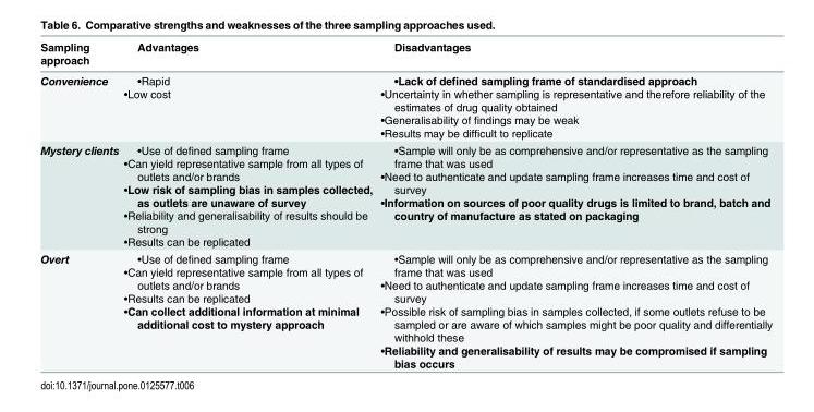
<table><thead><tr><td>Sampling approach</td><td>Advantages</td><td>Disadvantages</td></tr></thead><tbody><tr><td>Convenience</td><td>•Rapid •Low cost</td><td>•Lack of defined sampling frame of standardised approach •Uncertainty in whether sampling is representative and therefore reliability of the estimates of drug quality obtained •Generalisability of findings may be weak •Results may be difficult to replicate</td></tr><tr><td>Mystery clients</td><td>•Use of defined sampling frame •Can yield representative sample from all types of outlets and/or brands •Low risk of sampling bias in samples collected, as outlets are unaware of survey •Reliability and generalisability of results should be strong •Results can be replicated</td><td>•Sample will only be as comprehensive and/or representative as the sampling frame that was used •Need to authenticate and update sampling frame increases time and cost of survey •Information on sources of poor quality drugs is limited to brand, batch and country of manufacture as stated on packaging</td></tr><tr><td>Overt</td><td>•Use of defined sampling frame •Can yield representative sample from all types of outlets and/or brands •Results can be replicated •Can collect additional information at minimal additional cost to mystery approach</td><td>•Sample will only be as comprehensive and/or representative as the sampling frame that was used •Need to authenticate and update sampling frame increases time and cost of survey •Possible risk of sampling bias in samples collected, if some outlets refuse to be sampled or are aware of which samples might be poor quality and differentially withhold these •Reliability and generalisability of results may be compromised if sampling bias occurs</td></tr></tbody></table>